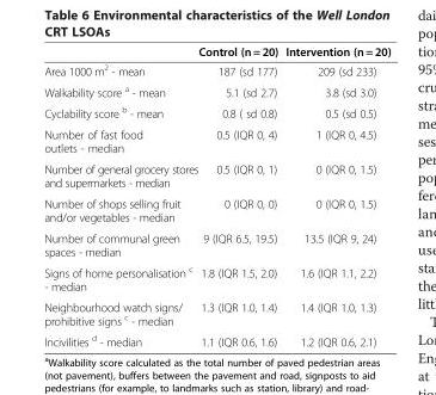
<table><thead><tr><td></td><td>Control (n = 20)</td><td>Intervention (n = 20)</td></tr></thead><tbody><tr><td>Area 1000 m<sup>2</sup> - mean</td><td>187 (sd 177)</td><td>209 (sd 233)</td></tr><tr><td>Walkability score <sup>a</sup> - mean</td><td>5.1 (sd 2.7)</td><td>3.8 (sd 3.0)</td></tr><tr><td>Cyclability score <sup>b</sup> - mean</td><td>0.8 ( sd 0.8)</td><td>0.5 (sd 0.5)</td></tr><tr><td>Number of fast food outlets - median</td><td>0.5 (IQR 0, 4)</td><td>1 (IQR 0, 4.5)</td></tr><tr><td>Number of general grocery stores and supermarkets - median</td><td>0.5 (IQR 0, 1)</td><td>0 (IQR 0, 1.5)</td></tr><tr><td>Number of shops selling fruit and/or vegetables - median</td><td>0 (IQR 0, 0)</td><td>0 (IQR 0, 1.5)</td></tr><tr><td>Number of communal green spaces - median</td><td>9 (IQR 6.5, 19.5)</td><td>13.5 (IQR 9, 24)</td></tr><tr><td>Signs of home personalisation <sup>c</sup> - median</td><td>1.8 (IQR 1.5, 2.0)</td><td>1.6 (IQR 1.1, 2.2)</td></tr><tr><td>Neighbourhood watch signs/ prohibitive signs <sup>c</sup> - median</td><td>1.3 (IQR 1.0, 1.4)</td><td>1.4 (IQR 1.0, 1.3)</td></tr><tr><td>Incivilities <sup>d</sup> - median</td><td>1.1 (IQR 0.6, 1.6)</td><td>1.2 (IQR 0.6, 2.1)</td></tr></tbody></table>